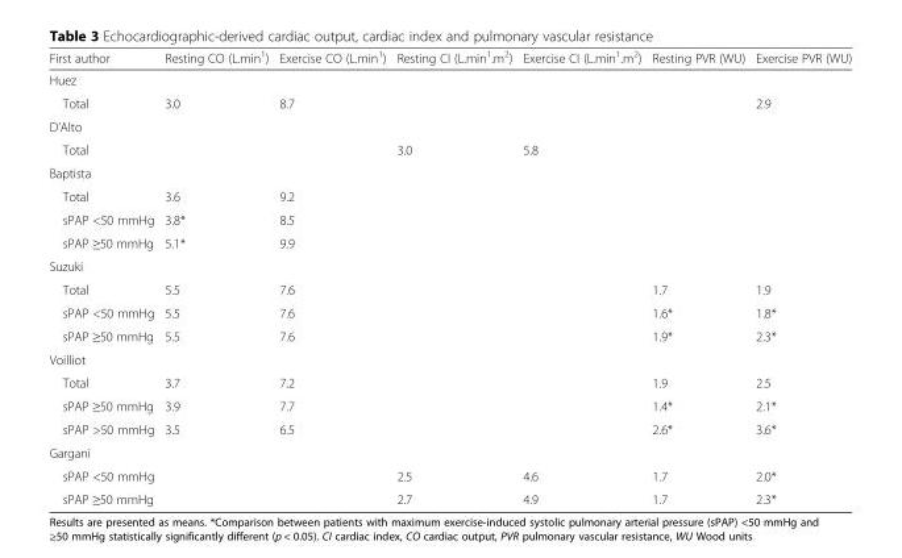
<table><thead><tr><td>First author</td><td>Resting CO (L.min<sup>1</sup>)</td><td>Exercise CO (L.min<sup>1</sup>)</td><td>Resting CI (L.min<sup>1</sup>.m<sup>2</sup>)</td><td>Exercise CI (L.min<sup>1</sup>.m<sup>2</sup>)</td><td>Resting PVR (WU)</td><td>Exercise PVR (WU)</td></tr></thead><tbody><tr><td colspan="7">Huez</td></tr><tr><td>Total</td><td>3.0</td><td>8.7</td><td></td><td></td><td></td><td>2.9</td></tr><tr><td colspan="7">D’Alto</td></tr><tr><td>Total</td><td></td><td></td><td>3.0</td><td>5.8</td><td></td><td></td></tr><tr><td colspan="7">Baptista</td></tr><tr><td>Total</td><td>3.6</td><td>9.2</td><td></td><td></td><td></td><td></td></tr><tr><td>sPAP &lt;50 mmHg</td><td>3.8*</td><td>8.5</td><td></td><td></td><td></td><td></td></tr><tr><td>sPAP ≥50 mmHg</td><td>5.1*</td><td>9.9</td><td></td><td></td><td></td><td></td></tr><tr><td colspan="7">Suzuki</td></tr><tr><td>Total</td><td>5.5</td><td>7.6</td><td></td><td></td><td>1.7</td><td>1.9</td></tr><tr><td>sPAP &lt;50 mmHg</td><td>5.5</td><td>7.6</td><td></td><td></td><td>1.6*</td><td>1.8*</td></tr><tr><td>sPAP ≥50 mmHg</td><td>5.5</td><td>7.6</td><td></td><td></td><td>1.9*</td><td>2.3*</td></tr><tr><td colspan="7">Voilliot</td></tr><tr><td>Total</td><td>3.7</td><td>7.2</td><td></td><td></td><td>1.9</td><td>2.5</td></tr><tr><td>sPAP ≥50 mmHg</td><td>3.9</td><td>7.7</td><td></td><td></td><td>1.4*</td><td>2.1*</td></tr><tr><td>sPAP &gt;50 mmHg</td><td>3.5</td><td>6.5</td><td></td><td></td><td>2.6*</td><td>3.6*</td></tr><tr><td colspan="7">Gargani</td></tr><tr><td>sPAP &lt;50 mmHg</td><td></td><td></td><td>2.5</td><td>4.6</td><td>1.7</td><td>2.0*</td></tr><tr><td>sPAP ≥50 mmHg</td><td></td><td></td><td>2.7</td><td>4.9</td><td>1.7</td><td>2.3*</td></tr></tbody></table>